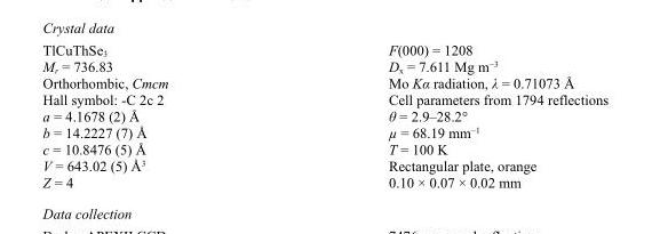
<table><tbody><tr><td>TlCuThSe<sub>3</sub></td><td>F(000) = 1208</td></tr><tr><td>M<sub>r</sub> = 736.83</td><td>D<sub>x</sub> = 7.611 Mg m<sup>−3</sup></td></tr><tr><td>Orthorhombic, Cmcm</td><td>Mo Kα radiation, λ = 0.71073 Å</td></tr><tr><td>Hall symbol: -C 2c 2</td><td>Cell parameters from 1794 reflections</td></tr><tr><td>a = 4.1678 (2) Å</td><td>θ = 2.9–28.2°</td></tr><tr><td>b = 14.2227 (7) Å</td><td>µ = 68.19 mm<sup>−1</sup></td></tr><tr><td>c = 10.8476 (5) Å</td><td>T = 100 K</td></tr><tr><td>V = 643.02 (5) Å<sup>3</sup></td><td>Rectangular plate, orange</td></tr><tr><td>Z = 4</td><td>0.10 × 0.07 × 0.02 mm</td></tr></tbody></table>